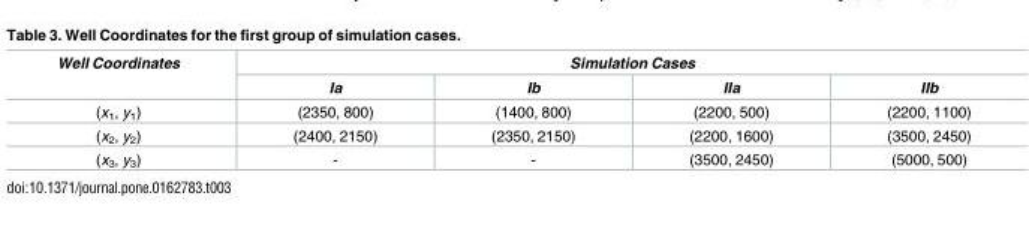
<table><thead><tr><td rowspan="2">Well Coordinates</td><td colspan="4">Simulation Cases</td></tr><tr><td>Ia</td><td>Ib</td><td>IIa</td><td>IIb</td></tr></thead><tbody><tr><td>(x<sub>1</sub>, y<sub>1</sub>)</td><td>(2350, 800)</td><td>(1400, 800)</td><td>(2200, 500)</td><td>(2200, 1100)</td></tr><tr><td>(x<sub>2</sub>, y<sub>2</sub>)</td><td>(2400, 2150)</td><td>(2350, 2150)</td><td>(2200, 1600)</td><td>(3500, 2450)</td></tr><tr><td>(x<sub>3</sub>, y<sub>3</sub>)</td><td>-</td><td>-</td><td>(3500, 2450)</td><td>(5000, 500)</td></tr></tbody></table>